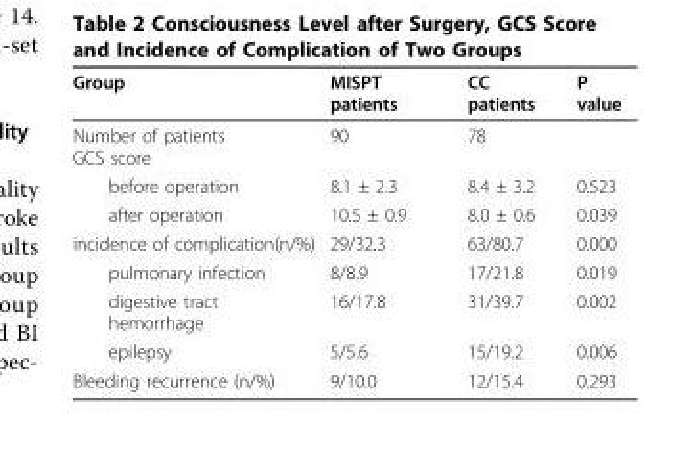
<table><thead><tr><td>Group</td><td>MISPT patients</td><td>CC patients</td><td>P value</td></tr></thead><tbody><tr><td>Number of patients GCS score</td><td>90</td><td>78</td><td></td></tr><tr><td>before operation</td><td>8.1 ± 2.3</td><td>8.4 ± 3.2</td><td>0.523</td></tr><tr><td>after operation</td><td>10.5 ± 0.9</td><td>8.0 ± 0.6</td><td>0.039</td></tr><tr><td>incidence of complication(n/%)</td><td>29/32.3</td><td>63/80.7</td><td>0.000</td></tr><tr><td>pulmonary infection</td><td>8/8.9</td><td>17/21.8</td><td>0.019</td></tr><tr><td>digestive tract hemorrhage</td><td>16/17.8</td><td>31/39.7</td><td>0.002</td></tr><tr><td>epilepsy</td><td>5/5.6</td><td>15/19.2</td><td>0.006</td></tr><tr><td>Bleeding recurrence (n/%)</td><td>9/10.0</td><td>12/15.4</td><td>0.293</td></tr></tbody></table>